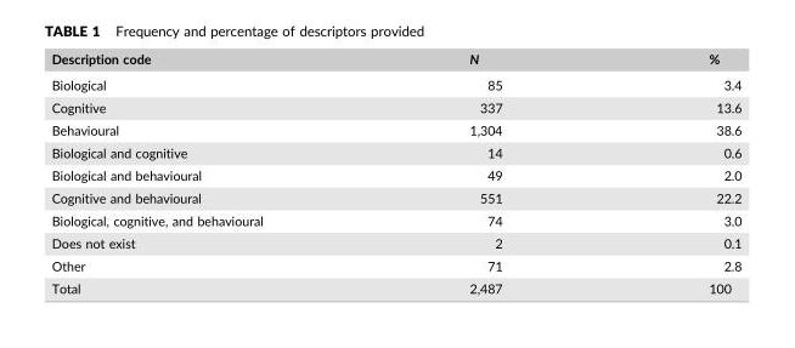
<table><thead><tr><td>Description code</td><td>N</td><td>%</td></tr></thead><tbody><tr><td>Biological</td><td>85</td><td>3.4</td></tr><tr><td>Cognitive</td><td>337</td><td>13.6</td></tr><tr><td>Behavioural</td><td>1,304</td><td>38.6</td></tr><tr><td>Biological and cognitive</td><td>14</td><td>0.6</td></tr><tr><td>Biological and behavioural</td><td>49</td><td>2.0</td></tr><tr><td>Cognitive and behavioural</td><td>551</td><td>22.2</td></tr><tr><td>Biological, cognitive, and behavioural</td><td>74</td><td>3.0</td></tr><tr><td>Does not exist</td><td>2</td><td>0.1</td></tr><tr><td>Other</td><td>71</td><td>2.8</td></tr><tr><td>Total</td><td>2,487</td><td>100</td></tr></tbody></table>